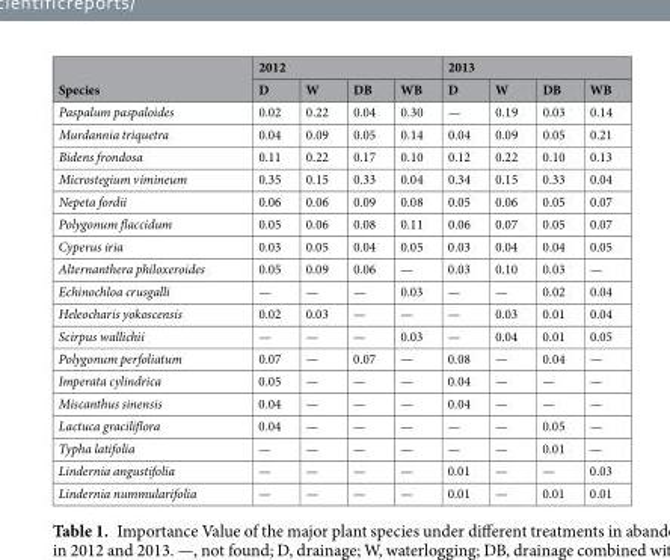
<table><thead><tr><td rowspan="2">Species</td><td colspan="4">2012</td><td colspan="4">2013</td></tr><tr><td>D</td><td>W</td><td>DB</td><td>WB</td><td>D</td><td>W</td><td>DB</td><td>WB</td></tr></thead><tbody><tr><td>Paspalum paspaloides</td><td>0.02</td><td>0.22</td><td>0.04</td><td>0.30</td><td>—</td><td>0.19</td><td>0.03</td><td>0.14</td></tr><tr><td>Murdannia triquetra</td><td>0.04</td><td>0.09</td><td>0.05</td><td>0.14</td><td>0.04</td><td>0.09</td><td>0.05</td><td>0.21</td></tr><tr><td>Bidens frondosa</td><td>0.11</td><td>0.22</td><td>0.17</td><td>0.10</td><td>0.12</td><td>0.22</td><td>0.10</td><td>0.13</td></tr><tr><td>Microstegium vimineum</td><td>0.35</td><td>0.15</td><td>0.33</td><td>0.04</td><td>0.34</td><td>0.15</td><td>0.33</td><td>0.04</td></tr><tr><td>Nepeta fordii</td><td>0.06</td><td>0.06</td><td>0.09</td><td>0.08</td><td>0.05</td><td>0.06</td><td>0.05</td><td>0.07</td></tr><tr><td>Polygonum flaccidum</td><td>0.05</td><td>0.06</td><td>0.08</td><td>0.11</td><td>0.06</td><td>0.07</td><td>0.05</td><td>0.07</td></tr><tr><td>Cyperus iria</td><td>0.03</td><td>0.05</td><td>0.04</td><td>0.05</td><td>0.03</td><td>0.04</td><td>0.04</td><td>0.05</td></tr><tr><td>Alternanthera philoxeroides</td><td>0.05</td><td>0.09</td><td>0.06</td><td>—</td><td>0.03</td><td>0.10</td><td>0.03</td><td>—</td></tr><tr><td>Echinochloa crusgalli</td><td>—</td><td>—</td><td>—</td><td>0.03</td><td>—</td><td>—</td><td>0.02</td><td>0.04</td></tr><tr><td>Heleocharis yokoscensis</td><td>0.02</td><td>0.03</td><td>—</td><td>—</td><td>—</td><td>0.03</td><td>0.01</td><td>0.04</td></tr><tr><td>Scirpus wallichii</td><td>—</td><td>—</td><td>—</td><td>0.03</td><td>—</td><td>0.04</td><td>0.01</td><td>0.05</td></tr><tr><td>Polygonum perfoliatum</td><td>0.07</td><td>—</td><td>0.07</td><td>—</td><td>0.08</td><td>—</td><td>0.04</td><td>—</td></tr><tr><td>Imperata cylindrica</td><td>0.05</td><td>—</td><td>—</td><td>—</td><td>0.04</td><td>—</td><td>—</td><td>—</td></tr><tr><td>Miscanthus sinensis</td><td>0.04</td><td>—</td><td>—</td><td>—</td><td>0.04</td><td>—</td><td>—</td><td>—</td></tr><tr><td>Lactuca graciliflora</td><td>0.04</td><td>—</td><td>—</td><td>—</td><td>—</td><td>—</td><td>0.05</td><td>—</td></tr><tr><td>Typha latifolia</td><td>—</td><td>—</td><td>—</td><td>—</td><td>—</td><td>—</td><td>0.01</td><td>—</td></tr><tr><td>Lindernia angustifolia</td><td>—</td><td>—</td><td>—</td><td>—</td><td>0.01</td><td>—</td><td>—</td><td>0.03</td></tr><tr><td>Lindernia nummularifolia</td><td>—</td><td>—</td><td>—</td><td>—</td><td>0.01</td><td>—</td><td>0.01</td><td>0.01</td></tr></tbody></table>